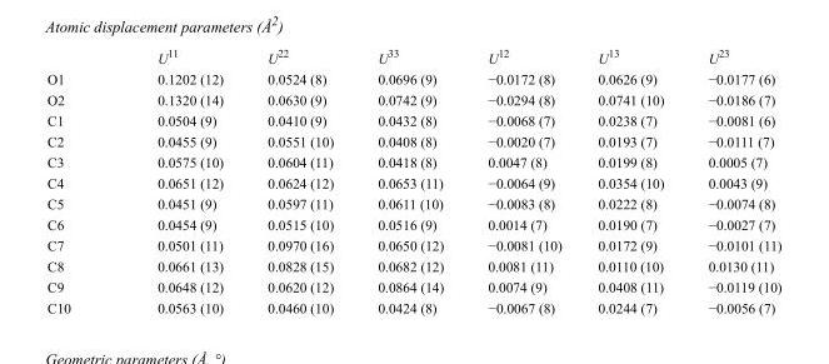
<table><thead><tr><td></td><td>U<sup>11</sup></td><td>U<sup>22</sup></td><td>U<sup>33</sup></td><td>U<sup>12</sup></td><td>U<sup>13</sup></td><td>U<sup>23</sup></td></tr></thead><tbody><tr><td>O1</td><td>0.1202 (12)</td><td>0.0524 (8)</td><td>0.0696 (9)</td><td>−0.0172 (8)</td><td>0.0626 (9)</td><td>−0.0177 (6)</td></tr><tr><td>O2</td><td>0.1320 (14)</td><td>0.0630 (9)</td><td>0.0742 (9)</td><td>−0.0294 (8)</td><td>0.0741 (10)</td><td>−0.0186 (7)</td></tr><tr><td>C1</td><td>0.0504 (9)</td><td>0.0410 (9)</td><td>0.0432 (8)</td><td>−0.0068 (7)</td><td>0.0238 (7)</td><td>−0.0081 (6)</td></tr><tr><td>C2</td><td>0.0455 (9)</td><td>0.0551 (10)</td><td>0.0408 (8)</td><td>−0.0020 (7)</td><td>0.0193 (7)</td><td>−0.0111 (7)</td></tr><tr><td>C3</td><td>0.0575 (10)</td><td>0.0604 (11)</td><td>0.0418 (8)</td><td>0.0047 (8)</td><td>0.0199 (8)</td><td>0.0005 (7)</td></tr><tr><td>C4</td><td>0.0651 (12)</td><td>0.0624 (12)</td><td>0.0653 (11)</td><td>−0.0064 (9)</td><td>0.0354 (10)</td><td>0.0043 (9)</td></tr><tr><td>C5</td><td>0.0451 (9)</td><td>0.0597 (11)</td><td>0.0611 (10)</td><td>−0.0083 (8)</td><td>0.0222 (8)</td><td>−0.0074 (8)</td></tr><tr><td>C6</td><td>0.0454 (9)</td><td>0.0515 (10)</td><td>0.0516 (9)</td><td>0.0014 (7)</td><td>0.0190 (7)</td><td>−0.0027 (7)</td></tr><tr><td>C7</td><td>0.0501 (11)</td><td>0.0970 (16)</td><td>0.0650 (12)</td><td>−0.0081 (10)</td><td>0.0172 (9)</td><td>−0.0101 (11)</td></tr><tr><td>C8</td><td>0.0661 (13)</td><td>0.0828 (15)</td><td>0.0682 (12)</td><td>0.0081 (11)</td><td>0.0110 (10)</td><td>0.0130 (11)</td></tr><tr><td>C9</td><td>0.0648 (12)</td><td>0.0620 (12)</td><td>0.0864 (14)</td><td>0.0074 (9)</td><td>0.0408 (11)</td><td>−0.0119 (10)</td></tr><tr><td>C10</td><td>0.0563 (10)</td><td>0.0460 (10)</td><td>0.0424 (8)</td><td>−0.0067 (8)</td><td>0.0244 (7)</td><td>−0.0056 (7)</td></tr></tbody></table>